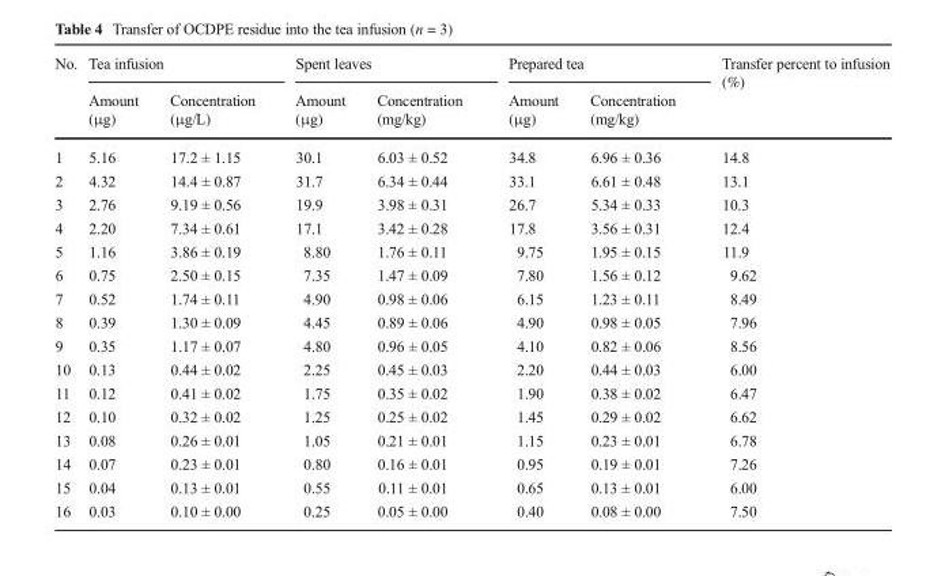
<table><thead><tr><td rowspan="2">No.</td><td colspan="2">Tea infusion</td><td colspan="2">Spent leaves</td><td colspan="2">Prepared tea</td><td rowspan="2">Transfer percent to infusion (%)</td></tr><tr><td>Amount (μg)</td><td>Concentration (μg/L)</td><td>Amount (μg)</td><td>Concentration (mg/kg)</td><td>Amount (μg)</td><td>Concentration (mg/kg)</td></tr></thead><tbody><tr><td>1</td><td>5.16</td><td>17.2 ± 1.15</td><td>30.1</td><td>6.03 ± 0.52</td><td>34.8</td><td>6.96 ± 0.36</td><td>14.8</td></tr><tr><td>2</td><td>4.32</td><td>14.4 ± 0.87</td><td>31.7</td><td>6.34 ± 0.44</td><td>33.1</td><td>6.61 ± 0.48</td><td>13.1</td></tr><tr><td>3</td><td>2.76</td><td>9.19 ± 0.56</td><td>19.9</td><td>3.98 ± 0.31</td><td>26.7</td><td>5.34 ± 0.33</td><td>10.3</td></tr><tr><td>4</td><td>2.20</td><td>7.34 ± 0.61</td><td>17.1</td><td>3.42 ± 0.28</td><td>17.8</td><td>3.56 ± 0.31</td><td>12.4</td></tr><tr><td>5</td><td>1.16</td><td>3.86 ± 0.19</td><td>8.80</td><td>1.76 ± 0.11</td><td>9.75</td><td>1.95 ± 0.15</td><td>11.9</td></tr><tr><td>6</td><td>0.75</td><td>2.50 ± 0.15</td><td>7.35</td><td>1.47 ± 0.09</td><td>7.80</td><td>1.56 ± 0.12</td><td>9.62</td></tr><tr><td>7</td><td>0.52</td><td>1.74 ± 0.11</td><td>4.90</td><td>0.98 ± 0.06</td><td>6.15</td><td>1.23 ± 0.11</td><td>8.49</td></tr><tr><td>8</td><td>0.39</td><td>1.30 ± 0.09</td><td>4.45</td><td>0.89 ± 0.06</td><td>4.90</td><td>0.98 ± 0.05</td><td>7.96</td></tr><tr><td>9</td><td>0.35</td><td>1.17 ± 0.07</td><td>4.80</td><td>0.96 ± 0.05</td><td>4.10</td><td>0.82 ± 0.06</td><td>8.56</td></tr><tr><td>10</td><td>0.13</td><td>0.44 ± 0.02</td><td>2.25</td><td>0.45 ± 0.03</td><td>2.20</td><td>0.44 ± 0.03</td><td>6.00</td></tr><tr><td>11</td><td>0.12</td><td>0.41 ± 0.02</td><td>1.75</td><td>0.35 ± 0.02</td><td>1.90</td><td>0.38 ± 0.02</td><td>6.47</td></tr><tr><td>12</td><td>0.10</td><td>0.32 ± 0.02</td><td>1.25</td><td>0.25 ± 0.02</td><td>1.45</td><td>0.29 ± 0.02</td><td>6.62</td></tr><tr><td>13</td><td>0.08</td><td>0.26 ± 0.01</td><td>1.05</td><td>0.21 ± 0.01</td><td>1.15</td><td>0.23 ± 0.01</td><td>6.78</td></tr><tr><td>14</td><td>0.07</td><td>0.23 ± 0.01</td><td>0.80</td><td>0.16 ± 0.01</td><td>0.95</td><td>0.19 ± 0.01</td><td>7.26</td></tr><tr><td>15</td><td>0.04</td><td>0.13 ± 0.01</td><td>0.55</td><td>0.11 ± 0.01</td><td>0.65</td><td>0.13 ± 0.01</td><td>6.00</td></tr><tr><td>16</td><td>0.03</td><td>0.10 ± 0.00</td><td>0.25</td><td>0.05 ± 0.00</td><td>0.40</td><td>0.08 ± 0.00</td><td>7.50</td></tr></tbody></table>